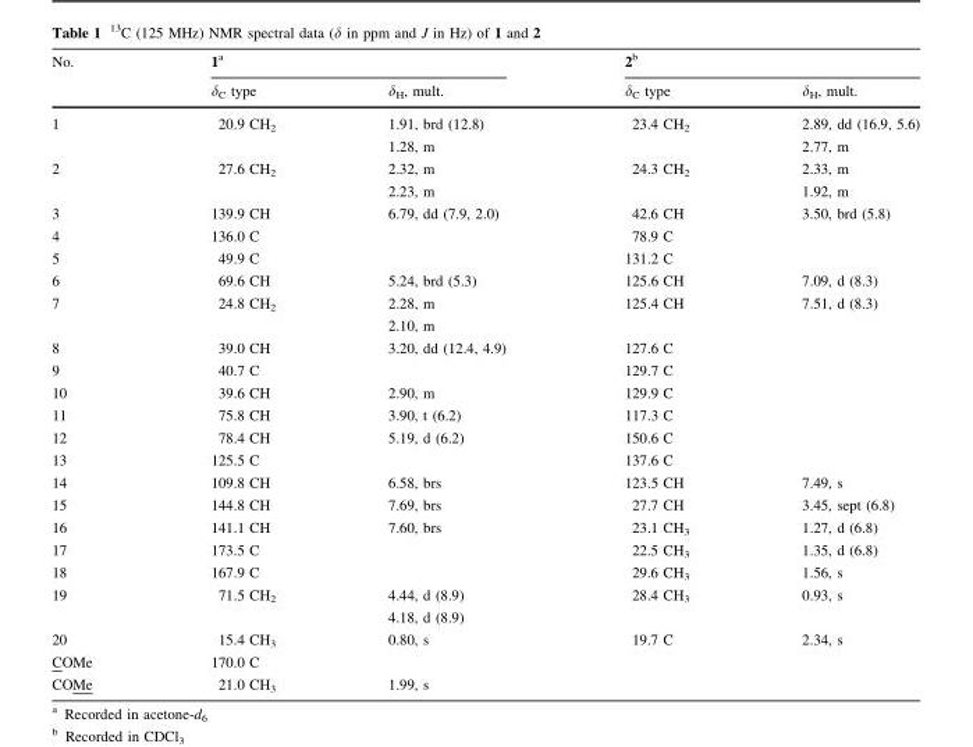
<table><thead><tr><td rowspan="2">No.</td><td colspan="2">1<sup>a</sup></td><td colspan="2">2<sup>b</sup></td></tr><tr><td>δ<sub>C</sub> type</td><td>δ<sub>H</sub>, mult.</td><td>δ<sub>C</sub> type</td><td>δ<sub>H</sub>, mult.</td></tr></thead><tbody><tr><td rowspan="2">1</td><td rowspan="2">20.9 CH<sub>2</sub></td><td>1.91, brd (12.8)</td><td>23.4 CH<sub>2</sub></td><td>2.89, dd (16.9, 5.6)</td></tr><tr><td>1.28, m</td><td></td><td>2.77, m</td></tr><tr><td rowspan="2">2</td><td rowspan="2">27.6 CH<sub>2</sub></td><td>2.32, m</td><td rowspan="2">24.3 CH<sub>2</sub></td><td>2.33, m</td></tr><tr><td>2.23, m</td><td>1.92, m</td></tr><tr><td>3</td><td>139.9 CH</td><td>6.79, dd (7.9, 2.0)</td><td>42.6 CH</td><td>3.50, brd (5.8)</td></tr><tr><td>4</td><td>136.0 C</td><td></td><td>78.9 C</td><td></td></tr><tr><td>5</td><td>49.9 C</td><td></td><td>131.2 C</td><td></td></tr><tr><td>6</td><td>69.6 CH</td><td>5.24, brd (5.3)</td><td>125.6 CH</td><td>7.09, d (8.3)</td></tr><tr><td rowspan="2">7</td><td rowspan="2">24.8 CH<sub>2</sub></td><td>2.28, m</td><td rowspan="2">125.4 CH</td><td rowspan="2">7.51, d (8.3)</td></tr><tr><td>2.10, m</td></tr><tr><td>8</td><td>39.0 CH</td><td>3.20, dd (12.4, 4.9)</td><td>127.6 C</td><td></td></tr><tr><td>9</td><td>40.7 C</td><td></td><td>129.7 C</td><td></td></tr><tr><td>10</td><td>39.6 CH</td><td>2.90, m</td><td>129.9 C</td><td></td></tr><tr><td>11</td><td>75.8 CH</td><td>3.90, t (6.2)</td><td>117.3 C</td><td></td></tr><tr><td>12</td><td>78.4 CH</td><td>5.19, d (6.2)</td><td>150.6 C</td><td></td></tr><tr><td>13</td><td>125.5 C</td><td></td><td>137.6 C</td><td></td></tr><tr><td>14</td><td>109.8 CH</td><td>6.58, brs</td><td>123.5 CH</td><td>7.49, s</td></tr><tr><td>15</td><td>144.8 CH</td><td>7.69, brs</td><td>27.7 CH</td><td>3.45, sept (6.8)</td></tr><tr><td>16</td><td>141.1 CH</td><td>7.60, brs</td><td>23.1 CH<sub>3</sub></td><td>1.27, d (6.8)</td></tr><tr><td>17</td><td>173.5 C</td><td></td><td>22.5 CH<sub>3</sub></td><td>1.35, d (6.8)</td></tr><tr><td>18</td><td>167.9 C</td><td></td><td>29.6 CH<sub>3</sub></td><td>1.56, s</td></tr><tr><td rowspan="2">19</td><td rowspan="2">71.5 CH<sub>2</sub></td><td>4.44, d (8.9)</td><td rowspan="2">28.4 CH<sub>3</sub></td><td rowspan="2">0.93, s</td></tr><tr><td>4.18, d (8.9)</td></tr><tr><td>20</td><td>15.4 CH<sub>3</sub></td><td>0.80, s</td><td>19.7 C</td><td>2.34, s</td></tr><tr><td>COMe</td><td>170.0 C</td><td></td><td></td><td></td></tr><tr><td>COMe</td><td>21.0 CH<sub>3</sub></td><td>1.99, s</td><td></td><td></td></tr></tbody></table>